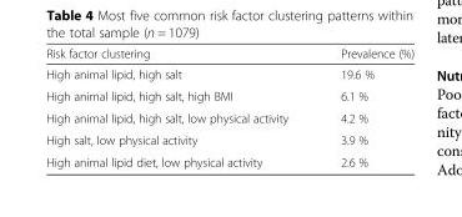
<table><thead><tr><td>Risk factor clustering</td><td>Prevalence (%)</td></tr></thead><tbody><tr><td>High animal lipid, high salt</td><td>19.6 %</td></tr><tr><td>High animal lipid, high salt, high BMI</td><td>6.1 %</td></tr><tr><td>High animal lipid, high salt, low physical activity</td><td>4.2 %</td></tr><tr><td>High salt, low physical activity</td><td>3.9 %</td></tr><tr><td>High animal lipid diet, low physical activity</td><td>2.6 %</td></tr></tbody></table>